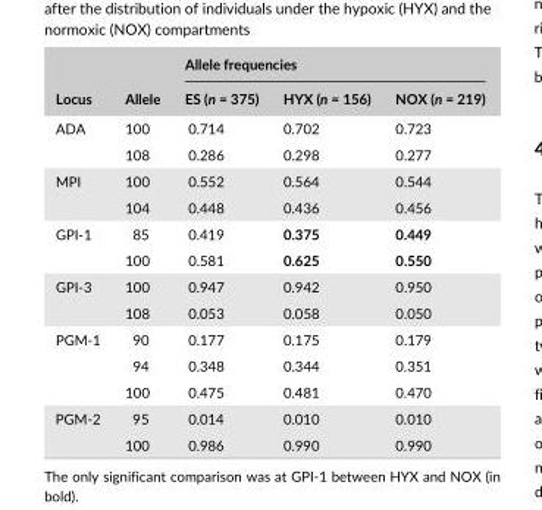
<table><thead><tr><td rowspan="2">Locus</td><td rowspan="2">Allele</td><td colspan="3">Allele frequencies</td></tr><tr><td>ES (n = 375)</td><td>HYX (n = 156)</td><td>NOX (n = 219)</td></tr></thead><tbody><tr><td rowspan="2">ADA</td><td>100</td><td>0.714</td><td>0.702</td><td>0.723</td></tr><tr><td>108</td><td>0.286</td><td>0.298</td><td>0.277</td></tr><tr><td rowspan="2">MPI</td><td>100</td><td>0.552</td><td>0.564</td><td>0.544</td></tr><tr><td>104</td><td>0.448</td><td>0.436</td><td>0.456</td></tr><tr><td rowspan="2">GPI- 1</td><td>85</td><td>0.419</td><td>0.375</td><td>0.449</td></tr><tr><td>100</td><td>0.581</td><td>0.625</td><td>0.550</td></tr><tr><td rowspan="2">GPI- 3</td><td>100</td><td>0.947</td><td>0.942</td><td>0.950</td></tr><tr><td>108</td><td>0.053</td><td>0.058</td><td>0.050</td></tr><tr><td rowspan="3">PGM- 1</td><td>90</td><td>0.177</td><td>0.175</td><td>0.179</td></tr><tr><td>94</td><td>0.348</td><td>0.344</td><td>0.351</td></tr><tr><td>100</td><td>0.475</td><td>0.481</td><td>0.470</td></tr><tr><td rowspan="2">PGM- 2</td><td>95</td><td>0.014</td><td>0.010</td><td>0.010</td></tr><tr><td>100</td><td>0.986</td><td>0.990</td><td>0.990</td></tr></tbody></table>